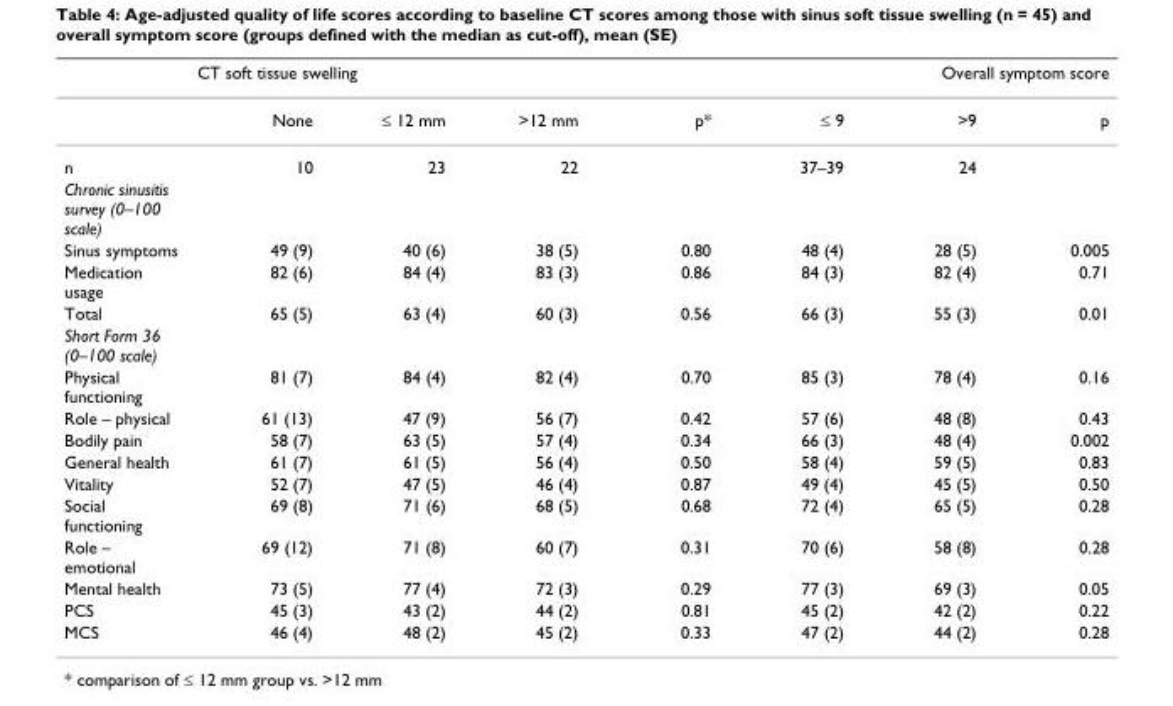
<table><thead><tr><td rowspan="2"></td><td colspan="4">CT soft tissue swelling</td><td colspan="3">Overall symptom score</td></tr><tr><td>None</td><td>≤ 12 mm</td><td>&gt;12 mm</td><td>p*</td><td>≤ 9</td><td>&gt;9</td><td>p</td></tr></thead><tbody><tr><td>n</td><td>10</td><td>23</td><td>22</td><td></td><td>37–39</td><td>24</td><td></td></tr><tr><td colspan="8">Chronic sinusitis survey (0–100 scale)</td></tr><tr><td>Sinus symptoms</td><td>49 (9)</td><td>40 (6)</td><td>38 (5)</td><td>0.80</td><td>48 (4)</td><td>28 (5)</td><td>0.005</td></tr><tr><td>Medication usage</td><td>82 (6)</td><td>84 (4)</td><td>83 (3)</td><td>0.86</td><td>84 (3)</td><td>82 (4)</td><td>0.71</td></tr><tr><td>Total</td><td>65 (5)</td><td>63 (4)</td><td>60 (3)</td><td>0.56</td><td>66 (3)</td><td>55 (3)</td><td>0.01</td></tr><tr><td colspan="8">Short Form 36 (0–100 scale)</td></tr><tr><td>Physical functioning</td><td>81 (7)</td><td>84 (4)</td><td>82 (4)</td><td>0.70</td><td>85 (3)</td><td>78 (4)</td><td>0.16</td></tr><tr><td>Role – physical</td><td>61 (13)</td><td>47 (9)</td><td>56 (7)</td><td>0.42</td><td>57 (6)</td><td>48 (8)</td><td>0.43</td></tr><tr><td>Bodily pain</td><td>58 (7)</td><td>63 (5)</td><td>57 (4)</td><td>0.34</td><td>66 (3)</td><td>48 (4)</td><td>0.002</td></tr><tr><td>General health</td><td>61 (7)</td><td>61 (5)</td><td>56 (4)</td><td>0.50</td><td>58 (4)</td><td>59 (5)</td><td>0.83</td></tr><tr><td>Vitality</td><td>52 (7)</td><td>47 (5)</td><td>46 (4)</td><td>0.87</td><td>49 (4)</td><td>45 (5)</td><td>0.50</td></tr><tr><td>Social functioning</td><td>69 (8)</td><td>71 (6)</td><td>68 (5)</td><td>0.68</td><td>72 (4)</td><td>65 (5)</td><td>0.28</td></tr><tr><td>Role – emotional</td><td>69 (12)</td><td>71 (8)</td><td>60 (7)</td><td>0.31</td><td>70 (6)</td><td>58 (8)</td><td>0.28</td></tr><tr><td>Mental health</td><td>73 (5)</td><td>77 (4)</td><td>72 (3)</td><td>0.29</td><td>77 (3)</td><td>69 (3)</td><td>0.05</td></tr><tr><td>PCS</td><td>45 (3)</td><td>43 (2)</td><td>44 (2)</td><td>0.81</td><td>45 (2)</td><td>42 (2)</td><td>0.22</td></tr><tr><td>MCS</td><td>46 (4)</td><td>48 (2)</td><td>45 (2)</td><td>0.33</td><td>47 (2)</td><td>44 (2)</td><td>0.28</td></tr></tbody></table>